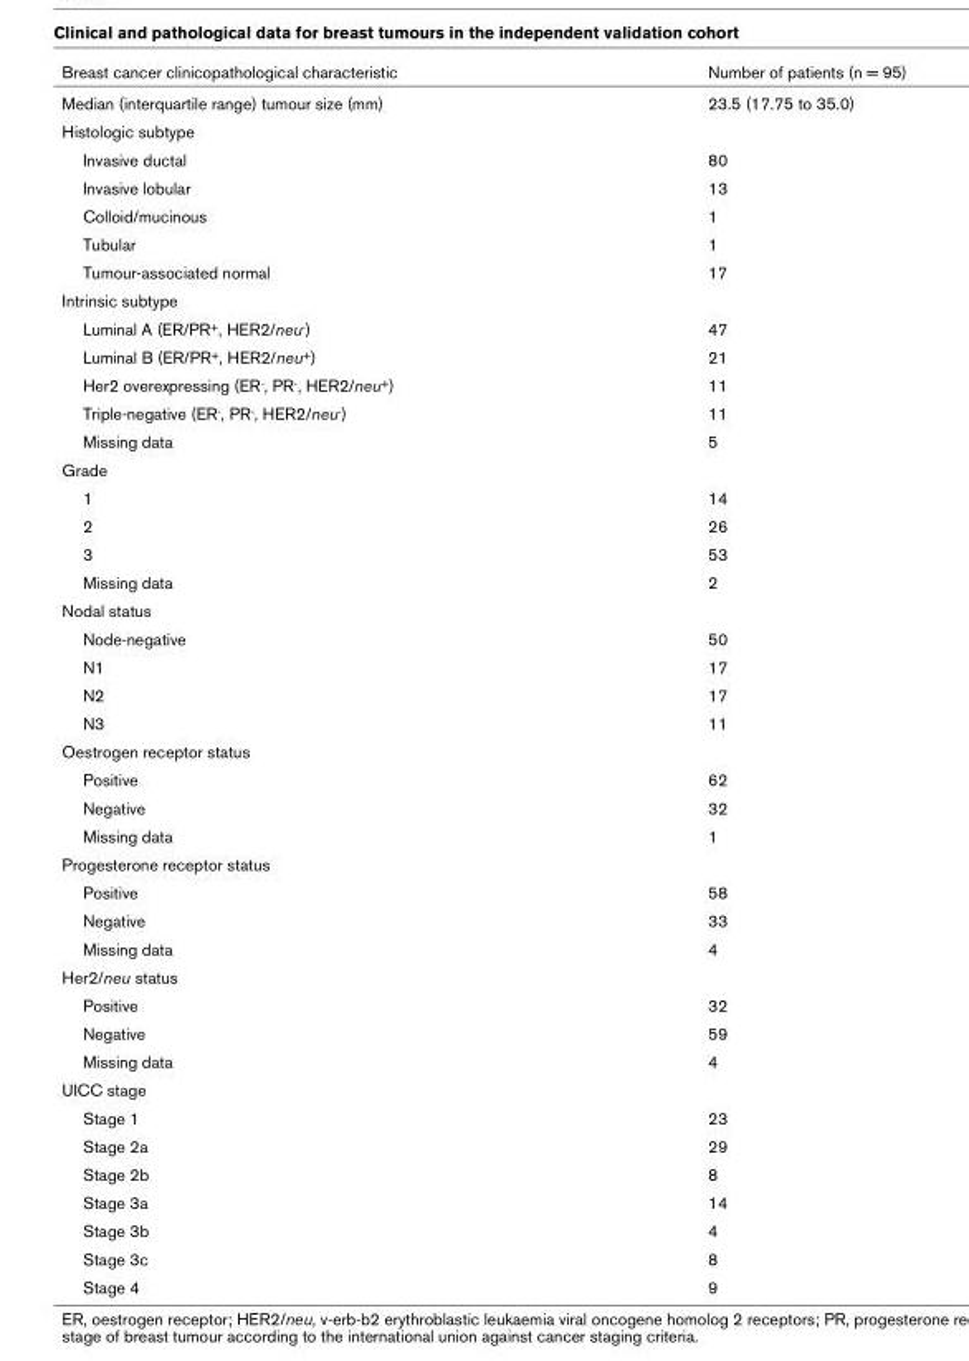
<table><thead><tr><td>Breast cancer clinicopathological characteristic</td><td>Number of patients (n = 95)</td></tr></thead><tbody><tr><td>Median (interquartile range) tumour size (mm)</td><td>23.5 (17.75 to 35.0)</td></tr><tr><td colspan="2">Histologic subtype</td></tr><tr><td>Invasive ductal</td><td>80</td></tr><tr><td>Invasive lobular</td><td>13</td></tr><tr><td>Colloid/mucinous</td><td>1</td></tr><tr><td>Tubular</td><td>1</td></tr><tr><td>Tumour-associated normal</td><td>17</td></tr><tr><td colspan="2">Intrinsic subtype</td></tr><tr><td>Luminal A (ER/PR<sup>+</sup>, HER2/neu<sup>-</sup>)</td><td>47</td></tr><tr><td>Luminal B (ER/PR<sup>+</sup>, HER2/neu<sup>+</sup>)</td><td>21</td></tr><tr><td>Her2 overexpressing (ER<sup>-</sup>, PR<sup>-</sup>, HER2/neu<sup>+</sup>)</td><td>11</td></tr><tr><td>Triple-negative (ER<sup>-</sup>, PR<sup>-</sup>, HER2/neu<sup>-</sup>)</td><td>11</td></tr><tr><td>Missing data</td><td>5</td></tr><tr><td colspan="2">Grade</td></tr><tr><td>1</td><td>14</td></tr><tr><td>2</td><td>26</td></tr><tr><td>3</td><td>53</td></tr><tr><td>Missing data</td><td>2</td></tr><tr><td colspan="2">Nodal status</td></tr><tr><td>Node-negative</td><td>50</td></tr><tr><td>N1</td><td>17</td></tr><tr><td>N2</td><td>17</td></tr><tr><td>N3</td><td>11</td></tr><tr><td colspan="2">Oestrogen receptor status</td></tr><tr><td>Positive</td><td>62</td></tr><tr><td>Negative</td><td>32</td></tr><tr><td>Missing data</td><td>1</td></tr><tr><td colspan="2">Progesterone receptor status</td></tr><tr><td>Positive</td><td>58</td></tr><tr><td>Negative</td><td>33</td></tr><tr><td>Missing data</td><td>4</td></tr><tr><td colspan="2">Her2/neu status</td></tr><tr><td>Positive</td><td>32</td></tr><tr><td>Negative</td><td>59</td></tr><tr><td>Missing data</td><td>4</td></tr><tr><td colspan="2">UICC stage</td></tr><tr><td>Stage 1</td><td>23</td></tr><tr><td>Stage 2a</td><td>29</td></tr><tr><td>Stage 2b</td><td>8</td></tr><tr><td>Stage 3a</td><td>14</td></tr><tr><td>Stage 3b</td><td>4</td></tr><tr><td>Stage 3c</td><td>8</td></tr><tr><td>Stage 4</td><td>9</td></tr></tbody></table>